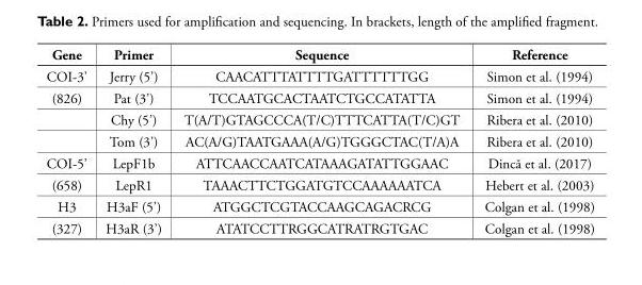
<table><tbody><tr><td>Gene</td><td>Primer</td><td>Sequence</td><td>Reference</td></tr><tr><td>COI-3’</td><td>Jerry (5’)</td><td>CAACATTTATTTTGATTTTTTGG</td><td>Simon et al. (1994)</td></tr><tr><td rowspan="3">(826)</td><td>Pat (3’)</td><td>TCCAATGCACTAATCTGCCATATTA</td><td>Simon et al. (1994)</td></tr><tr><td>Chy (5’)</td><td>T(A/T)GTAGCCCA(T/C)TTTCATTA(T/C)GT</td><td>Ribera et al. (2010)</td></tr><tr><td>Tom (3’)</td><td>AC(A/G)TAATGAAA(A/G)TGGGCTAC(T/A)A</td><td>Ribera et al. (2010)</td></tr><tr><td>COI-5’</td><td>LepF1b</td><td>ATTCAACCAATCATAAAGATATTGGAAC</td><td>Dincă et al. (2017)</td></tr><tr><td>(658)</td><td>LepR1</td><td>TAAACTTCTGGATGTCCAAAAAATCA</td><td>Hebert et al. (2003)</td></tr><tr><td>H3</td><td>H3aF (5’)</td><td>ATGGCTCGTACCAAGCAGACRCG</td><td>Colgan et al. (1998)</td></tr><tr><td>(327)</td><td>H3aR (3’)</td><td>ATATCCTTRGGCATRATRGTGAC</td><td>Colgan et al. (1998)</td></tr></tbody></table>